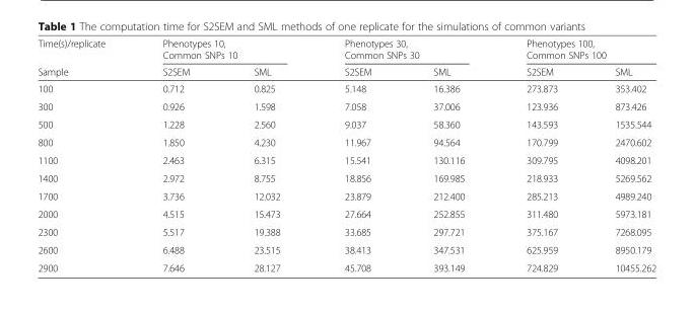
<table><thead><tr><td rowspan="2">Time(s)/replicate Sample</td><td colspan="2">Phenotypes 10, Common SNPs 10</td><td colspan="2">Phenotypes 30, Common SNPs 30</td><td colspan="2">Phenotypes 100, Common SNPs 100</td></tr><tr><td>S2SEM</td><td>SML</td><td>S2SEM</td><td>SML</td><td>S2SEM</td><td>SML</td></tr></thead><tbody><tr><td>100</td><td>0.712</td><td>0.825</td><td>5.148</td><td>16.386</td><td>273.873</td><td>353.402</td></tr><tr><td>300</td><td>0.926</td><td>1.598</td><td>7.058</td><td>37.006</td><td>123.936</td><td>873.426</td></tr><tr><td>500</td><td>1.228</td><td>2.560</td><td>9.037</td><td>58.360</td><td>143.593</td><td>1535.544</td></tr><tr><td>800</td><td>1.850</td><td>4.230</td><td>11.967</td><td>94.564</td><td>170.799</td><td>2470.602</td></tr><tr><td>1100</td><td>2.463</td><td>6.315</td><td>15.541</td><td>130.116</td><td>309.795</td><td>4098.201</td></tr><tr><td>1400</td><td>2.972</td><td>8.755</td><td>18.856</td><td>169.985</td><td>218.933</td><td>5269.562</td></tr><tr><td>1700</td><td>3.736</td><td>12.032</td><td>23.879</td><td>212.400</td><td>285.213</td><td>4989.240</td></tr><tr><td>2000</td><td>4.515</td><td>15.473</td><td>27.664</td><td>252.855</td><td>311.480</td><td>5973.181</td></tr><tr><td>2300</td><td>5.517</td><td>19.388</td><td>33.685</td><td>297.721</td><td>375.167</td><td>7268.095</td></tr><tr><td>2600</td><td>6.488</td><td>23.515</td><td>38.413</td><td>347.531</td><td>625.959</td><td>8950.179</td></tr><tr><td>2900</td><td>7.646</td><td>28.127</td><td>45.708</td><td>393.149</td><td>724.829</td><td>10455.262</td></tr></tbody></table>